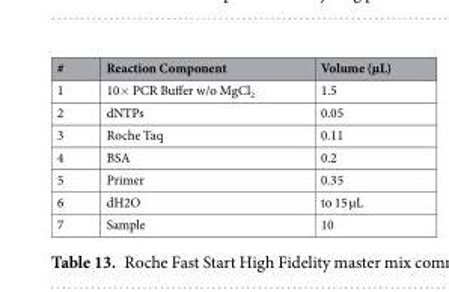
<table><thead><tr><td>#</td><td>Reaction Component</td><td>Volume (µL)</td></tr></thead><tbody><tr><td>1</td><td>10× PCR Buffer w/o MgCl<sub>2</sub></td><td>1.5</td></tr><tr><td>2</td><td>dNTPs</td><td>0.05</td></tr><tr><td>3</td><td>Roche Taq</td><td>0.11</td></tr><tr><td>4</td><td>BSA</td><td>0.2</td></tr><tr><td>5</td><td>Primer</td><td>0.35</td></tr><tr><td>6</td><td>dH2O</td><td>to 15 µL</td></tr><tr><td>7</td><td>Sample</td><td>10</td></tr></tbody></table>